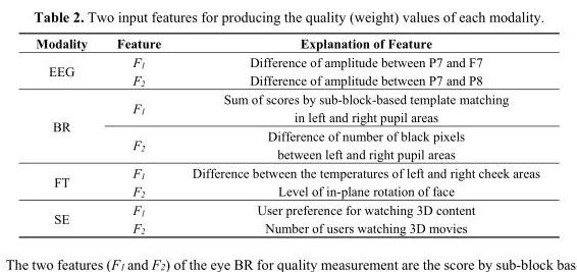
<table><thead><tr><td>Modality</td><td>Feature</td><td>Explanation of Feature</td></tr></thead><tbody><tr><td rowspan="2">EEG</td><td>F<sub>1</sub></td><td>Difference of amplitude between P7 and F7</td></tr><tr><td>F<sub>2</sub></td><td>Difference of amplitude between P7 and P8</td></tr><tr><td rowspan="2">BR</td><td>F<sub>1</sub></td><td>Sum of scores by sub-block-based template matching in left and right pupil areas</td></tr><tr><td>F<sub>2</sub></td><td>Difference of number of black pixels between left and right pupil areas</td></tr><tr><td rowspan="2">FT</td><td>F<sub>1</sub></td><td>Difference between the temperatures of left and right cheek areas</td></tr><tr><td>F<sub>2</sub></td><td>Level of in-plane rotation of face</td></tr><tr><td rowspan="2">SE</td><td>F<sub>1</sub></td><td>User preference for watching 3D content</td></tr><tr><td>F<sub>2</sub></td><td>Number of users watching 3D movies</td></tr></tbody></table>